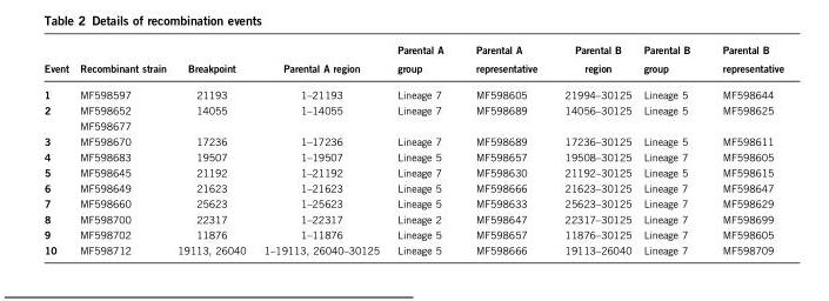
<table><thead><tr><td>Event</td><td>Recombinant strain</td><td>Breakpoint</td><td>Parental A region</td><td>Parental A group</td><td>Parental A representative</td><td>Parental B region</td><td>Parental B group</td><td>Parental B representative</td></tr></thead><tbody><tr><td>1</td><td>MF598597</td><td>21193</td><td>1–21193</td><td>Lineage 7</td><td>MF598605</td><td>21994–30125</td><td>Lineage 5</td><td>MF598644</td></tr><tr><td rowspan="2">2</td><td>MF598652</td><td>14055</td><td>1–14055</td><td>Lineage 7</td><td>MF598689</td><td>14056–30125</td><td>Lineage 5</td><td>MF598625</td></tr><tr><td>MF598677</td><td></td><td></td><td></td><td></td><td></td><td></td><td></td></tr><tr><td>3</td><td>MF598670</td><td>17236</td><td>1–17236</td><td>Lineage 7</td><td>MF598689</td><td>17236–30125</td><td>Lineage 5</td><td>MF598611</td></tr><tr><td>4</td><td>MF598683</td><td>19507</td><td>1–19507</td><td>Lineage 5</td><td>MF598657</td><td>19508–30125</td><td>Lineage 7</td><td>MF598605</td></tr><tr><td>5</td><td>MF598645</td><td>21192</td><td>1–21192</td><td>Lineage 7</td><td>MF598630</td><td>21192–30125</td><td>Lineage 5</td><td>MF598615</td></tr><tr><td>6</td><td>MF598649</td><td>21623</td><td>1–21623</td><td>Lineage 5</td><td>MF598666</td><td>21623–30125</td><td>Lineage 7</td><td>MF598647</td></tr><tr><td>7</td><td>MF598660</td><td>25623</td><td>1–25623</td><td>Lineage 5</td><td>MF598633</td><td>25623–30125</td><td>Lineage 7</td><td>MF598629</td></tr><tr><td>8</td><td>MF598700</td><td>22317</td><td>1–22317</td><td>Lineage 2</td><td>MF598647</td><td>22317–30125</td><td>Lineage 7</td><td>MF598699</td></tr><tr><td>9</td><td>MF598702</td><td>11876</td><td>1–11876</td><td>Lineage 5</td><td>MF598657</td><td>11876–30125</td><td>Lineage 7</td><td>MF598605</td></tr><tr><td>10</td><td>MF598712</td><td>19113, 26040</td><td>1–19113, 26040–30125</td><td>Lineage 5</td><td>MF598666</td><td>19113–26040</td><td>Lineage 7</td><td>MF598709</td></tr></tbody></table>